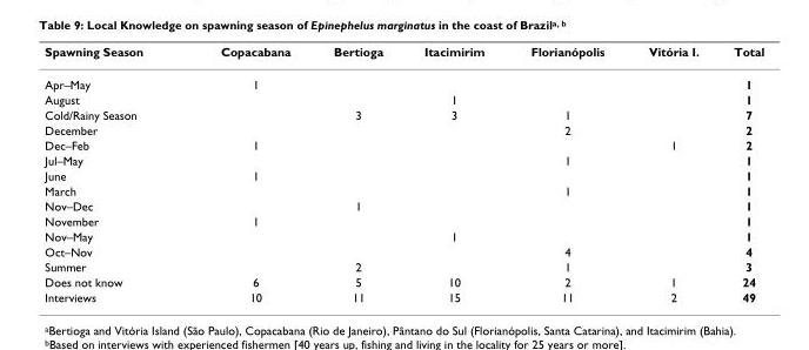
<table><thead><tr><td>Spawning Season</td><td>Copacabana</td><td>Bertioga</td><td>Itacimirim</td><td>Florianópolis</td><td>Vitória I.</td><td>Total</td></tr></thead><tbody><tr><td>Apr–May</td><td>1</td><td></td><td></td><td></td><td></td><td>1</td></tr><tr><td>August</td><td></td><td></td><td>1</td><td></td><td></td><td>1</td></tr><tr><td>Cold/Rainy Season</td><td></td><td>3</td><td>3</td><td>1</td><td></td><td>7</td></tr><tr><td>December</td><td></td><td></td><td></td><td>2</td><td></td><td>2</td></tr><tr><td>Dec–Feb</td><td>1</td><td></td><td></td><td></td><td>1</td><td>2</td></tr><tr><td>Jul–May</td><td></td><td></td><td></td><td>1</td><td></td><td>1</td></tr><tr><td>June</td><td>1</td><td></td><td></td><td></td><td></td><td>1</td></tr><tr><td>March</td><td></td><td></td><td></td><td>1</td><td></td><td>1</td></tr><tr><td>Nov–Dec</td><td></td><td>1</td><td></td><td></td><td></td><td>1</td></tr><tr><td>November</td><td>1</td><td></td><td></td><td></td><td></td><td>1</td></tr><tr><td>Nov–May</td><td></td><td></td><td>1</td><td></td><td></td><td>1</td></tr><tr><td>Oct–Nov</td><td></td><td></td><td></td><td>4</td><td></td><td>4</td></tr><tr><td>Summer</td><td></td><td>2</td><td></td><td>1</td><td></td><td>3</td></tr><tr><td>Does not know</td><td>6</td><td>5</td><td>10</td><td>2</td><td>1</td><td>24</td></tr><tr><td>Interviews</td><td>10</td><td>11</td><td>15</td><td>11</td><td>2</td><td>49</td></tr></tbody></table>